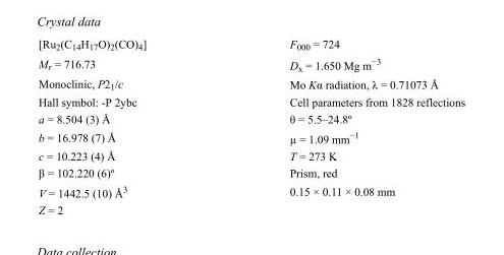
<table><tbody><tr><td>[Ru<sub>2</sub>(C<sub>14</sub>H<sub>17</sub>O)<sub>2</sub>(CO)<sub>4</sub>]</td><td>F000 = 724</td></tr><tr><td>M<sub>r</sub> = 716.73</td><td>D<sub>x</sub> = 1.650 Mg m<sup>−3</sup></td></tr><tr><td>Monoclinic, P2<sub>1</sub>/c</td><td>Mo Kα radiation, λ = 0.71073 Å</td></tr><tr><td>Hall symbol: -P 2ybc</td><td>Cell parameters from 1828 reflections</td></tr><tr><td>a = 8.504 (3) Å</td><td>θ = 5.5–24.8º</td></tr><tr><td>b = 16.978 (7) Å</td><td>µ = 1.09 mm<sup>−1</sup></td></tr><tr><td>c = 10.223 (4) Å</td><td>T = 273 K</td></tr><tr><td>β = 102.220 (6)º</td><td>Prism, red</td></tr><tr><td>V = 1442.5 (10) Å<sup>3</sup></td><td>0.15 × 0.11 × 0.08 mm</td></tr><tr><td>Z = 2</td><td></td></tr></tbody></table>